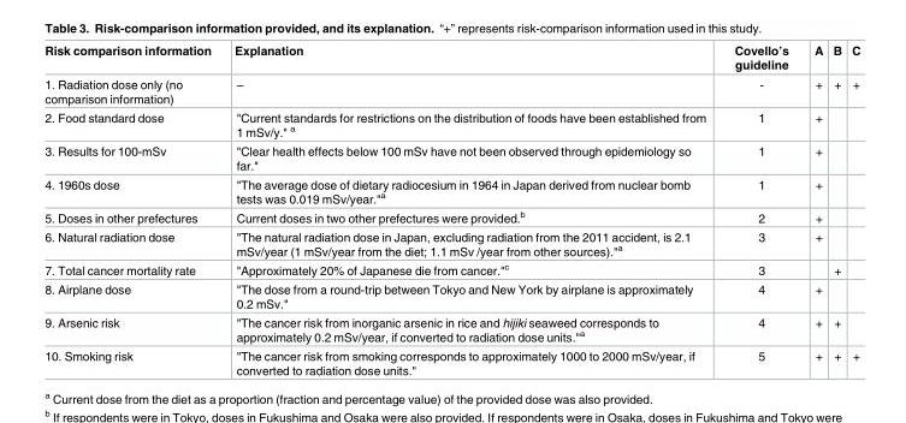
<table><thead><tr><td>Risk comparison information</td><td>Explanation</td><td>Covello’s guideline</td><td>A</td><td>B</td><td>C</td></tr></thead><tbody><tr><td>1. Radiation dose only (no comparison information)</td><td>–</td><td>-</td><td>+</td><td>+</td><td>+</td></tr><tr><td>2. Food standard dose</td><td>&quot;Current standards for restrictions on the distribution of foods have been established from 1 mSv/y.&quot; <sup>a</sup></td><td>1</td><td>+</td><td></td><td></td></tr><tr><td>3. Results for 100-mSv</td><td>&quot;Clear health effects below 100 mSv have not been observed through epidemiology so far.&quot;</td><td>1</td><td>+</td><td></td><td></td></tr><tr><td>4. 1960s dose</td><td>&quot;The average dose of dietary radiocesium in 1964 in Japan derived from nuclear bomb tests was 0.019 mSv/year.&quot;<sup>a</sup></td><td>1</td><td>+</td><td></td><td></td></tr><tr><td>5. Doses in other prefectures</td><td>Current doses in two other prefectures were provided.<sup>b</sup></td><td>2</td><td>+</td><td></td><td></td></tr><tr><td>6. Natural radiation dose</td><td>&quot;The natural radiation dose in Japan, excluding radiation from the 2011 accident, is 2.1 mSv/year (1 mSv/year from the diet; 1.1 mSv /year from other sources).&quot;<sup>a</sup></td><td>3</td><td>+</td><td></td><td></td></tr><tr><td>7. Total cancer mortality rate</td><td>&quot;Approximately 20% of Japanese die from cancer.&quot;<sup>c</sup></td><td>3</td><td></td><td>+</td><td></td></tr><tr><td>8. Airplane dose</td><td>&quot;The dose from a round-trip between Tokyo and New York by airplane is approximately 0.2 mSv.&quot;</td><td>4</td><td>+</td><td></td><td></td></tr><tr><td>9. Arsenic risk</td><td>&quot;The cancer risk from inorganic arsenic in rice and hijiki seaweed corresponds to approximately 0.2 mSv/year, if converted to radiation dose units.&quot;<sup>a</sup></td><td>4</td><td>+</td><td>+</td><td></td></tr><tr><td>10. Smoking risk</td><td>&quot;The cancer risk from smoking corresponds to approximately 1000 to 2000 mSv/year, if converted to radiation dose units.&quot;</td><td>5</td><td>+</td><td>+</td><td>+</td></tr></tbody></table>